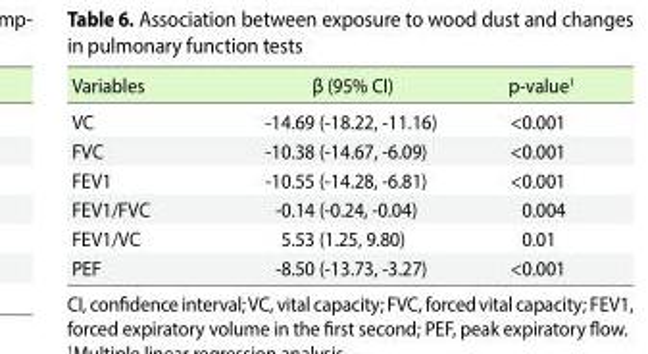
<table><thead><tr><td>Variables</td><td>β (95% CI)</td><td>p-value<sup>1</sup></td></tr></thead><tbody><tr><td>VC</td><td>-14.69 (-18.22, -11.16)</td><td>&lt;0.001</td></tr><tr><td>FVC</td><td>-10.38 (-14.67, -6.09)</td><td>&lt;0.001</td></tr><tr><td>FEV1</td><td>-10.55 (-14.28, -6.81)</td><td>&lt;0.001</td></tr><tr><td>FEV1/FVC</td><td>-0.14 (-0.24, -0.04)</td><td>0.004</td></tr><tr><td>FEV1/VC</td><td>5.53 (1.25, 9.80)</td><td>0.01</td></tr><tr><td>PEF</td><td>-8.50 (-13.73, -3.27)</td><td>&lt;0.001</td></tr></tbody></table>